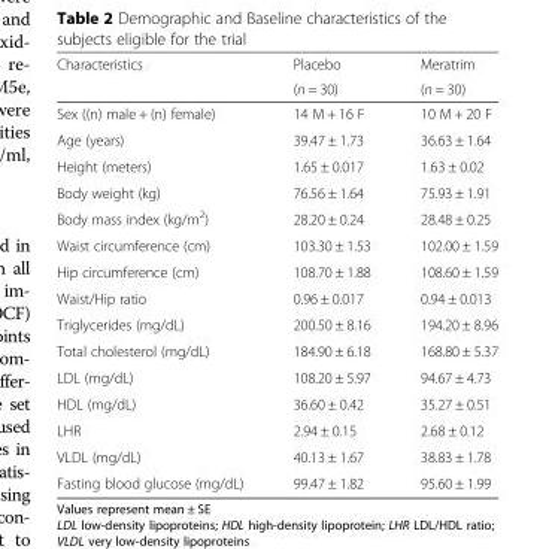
<table><thead><tr><td rowspan="2">Characteristics</td><td rowspan="2">Placebo (n = 30)</td><td rowspan="2">Meratrim (n = 30)</td></tr><tr></tr></thead><tbody><tr><td>Sex ((n) male + (n) female)</td><td>14 M + 16 F</td><td>10 M + 20 F</td></tr><tr><td>Age (years)</td><td>39.47 ± 1.73</td><td>36.63 ± 1.64</td></tr><tr><td>Height (meters)</td><td>1.65 ± 0.017</td><td>1.63 ± 0.02</td></tr><tr><td>Body weight (kg)</td><td>76.56 ± 1.64</td><td>75.93 ± 1.91</td></tr><tr><td>Body mass index (kg/m<sup>2</sup>)</td><td>28.20 ± 0.24</td><td>28.48 ± 0.25</td></tr><tr><td>Waist circumference (cm)</td><td>103.30 ± 1.53</td><td>102.00 ± 1.59</td></tr><tr><td>Hip circumference (cm)</td><td>108.70 ± 1.88</td><td>108.60 ± 1.59</td></tr><tr><td>Waist/Hip ratio</td><td>0.96 ± 0.017</td><td>0.94 ± 0.013</td></tr><tr><td>Triglycerides (mg/dL)</td><td>200.50 ± 8.16</td><td>194.20 ± 8.96</td></tr><tr><td>Total cholesterol (mg/dL)</td><td>184.90 ± 6.18</td><td>168.80 ± 5.37</td></tr><tr><td>LDL (mg/dL)</td><td>108.20 ± 5.97</td><td>94.67 ± 4.73</td></tr><tr><td>HDL (mg/dL)</td><td>36.60 ± 0.42</td><td>35.27 ± 0.51</td></tr><tr><td>LHR</td><td>2.94 ± 0.15</td><td>2.68 ± 0.12</td></tr><tr><td>VLDL (mg/dL)</td><td>40.13 ± 1.67</td><td>38.83 ± 1.78</td></tr><tr><td>Fasting blood glucose (mg/dL)</td><td>99.47 ± 1.82</td><td>95.60 ± 1.99</td></tr></tbody></table>